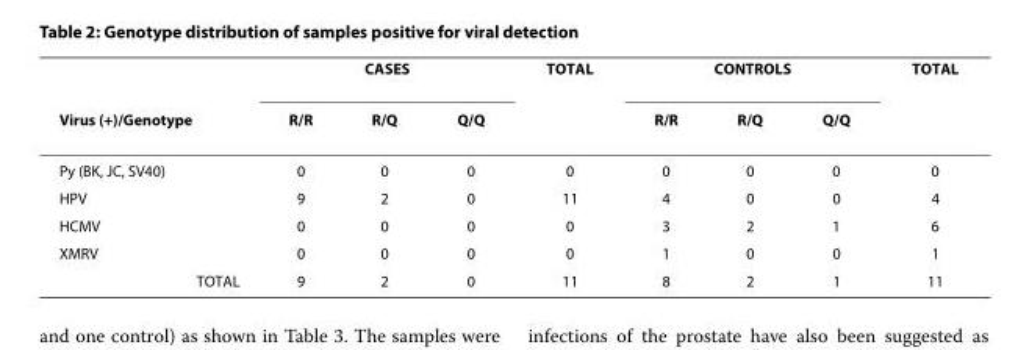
<table><thead><tr><td rowspan="2">Virus (+)/Genotype</td><td colspan="3">CASES</td><td rowspan="2">TOTAL</td><td colspan="3">CONTROLS</td><td rowspan="2">TOTAL</td></tr><tr><td>R/R</td><td>R/Q</td><td>Q/Q</td><td>R/R</td><td>R/Q</td><td>Q/Q</td></tr></thead><tbody><tr><td>Py (BK, JC, SV40)</td><td>0</td><td>0</td><td>0</td><td>0</td><td>0</td><td>0</td><td>0</td><td>0</td></tr><tr><td>HPV</td><td>9</td><td>2</td><td>0</td><td>11</td><td>4</td><td>0</td><td>0</td><td>4</td></tr><tr><td>HCMV</td><td>0</td><td>0</td><td>0</td><td>0</td><td>3</td><td>2</td><td>1</td><td>6</td></tr><tr><td>XMRV</td><td>0</td><td>0</td><td>0</td><td>0</td><td>1</td><td>0</td><td>0</td><td>1</td></tr><tr><td>TOTAL</td><td>9</td><td>2</td><td>0</td><td>11</td><td>8</td><td>2</td><td>1</td><td>11</td></tr></tbody></table>